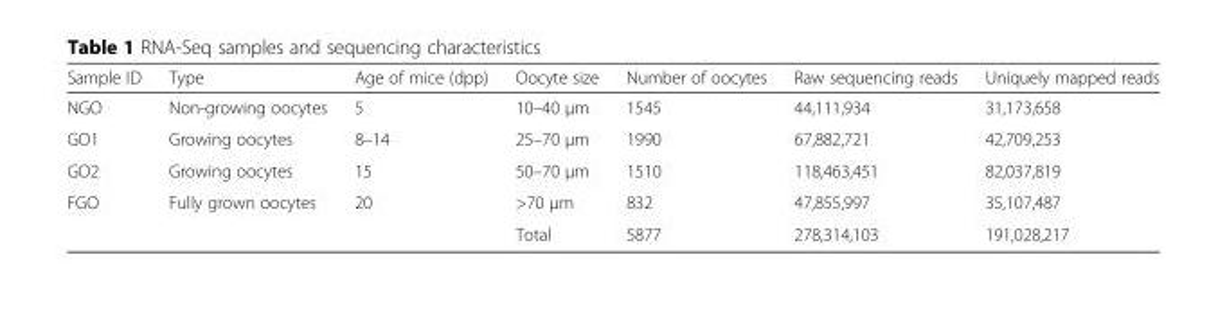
<table><thead><tr><td>Sample ID</td><td>Type</td><td>Age of mice (dpp)</td><td>Oocyte size</td><td>Number of oocytes</td><td>Raw sequencing reads</td><td>Uniquely mapped reads</td></tr></thead><tbody><tr><td>NGO</td><td>Non-growing oocytes</td><td>5</td><td>10–40 μm</td><td>1545</td><td>44,111,934</td><td>31,173,658</td></tr><tr><td>GO1</td><td>Growing oocytes</td><td>8–14</td><td>25–70 μm</td><td>1990</td><td>67,882,721</td><td>42,709,253</td></tr><tr><td>GO2</td><td>Growing oocytes</td><td>15</td><td>50–70 μm</td><td>1510</td><td>118,463,451</td><td>82,037,819</td></tr><tr><td rowspan="2">FGO</td><td>Fully grown oocytes</td><td>20</td><td>&gt;70 μm</td><td>832</td><td>47,855,997</td><td>35,107,487</td></tr><tr><td></td><td></td><td>Total</td><td>5877</td><td>278,314,103</td><td>191,028,217</td></tr></tbody></table>